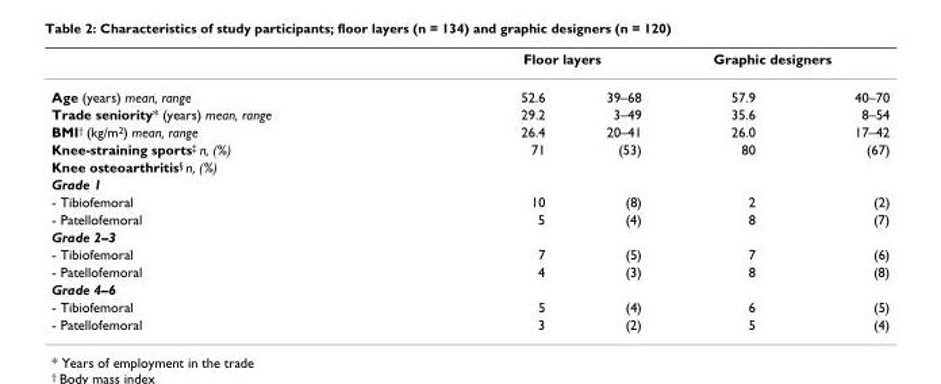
<table><thead><tr><td rowspan="2">Age (years) mean, range</td><td colspan="2">Floor layers</td><td colspan="2">Graphic designers</td></tr><tr><td>52.6</td><td>39–68</td><td>57.9</td><td>40–70</td></tr></thead><tbody><tr><td>Trade seniority* (years) mean, range</td><td>29.2</td><td>3–49</td><td>35.6</td><td>8–54</td></tr><tr><td>BMI<sup>†</sup> (kg/m<sup>2</sup>) mean, range</td><td>26.4</td><td>20–41</td><td>26.0</td><td>17–42</td></tr><tr><td>Knee-straining sports<sup>‡</sup> n, (%)</td><td>71</td><td>(53)</td><td>80</td><td>(67)</td></tr><tr><td colspan="5">Knee osteoarthritis<sup>§</sup> n, (%)</td></tr><tr><td colspan="5">Grade 1</td></tr><tr><td>- Tibiofemoral</td><td>10</td><td>(8)</td><td>2</td><td>(2)</td></tr><tr><td>- Patellofemoral</td><td>5</td><td>(4)</td><td>8</td><td>(7)</td></tr><tr><td colspan="5">Grade 2–3</td></tr><tr><td>- Tibiofemoral</td><td>7</td><td>(5)</td><td>7</td><td>(6)</td></tr><tr><td>- Patellofemoral</td><td>4</td><td>(3)</td><td>8</td><td>(8)</td></tr><tr><td colspan="5">Grade 4–6</td></tr><tr><td>- Tibiofemoral</td><td>5</td><td>(4)</td><td>6</td><td>(5)</td></tr><tr><td>- Patellofemoral</td><td>3</td><td>(2)</td><td>5</td><td>(4)</td></tr></tbody></table>